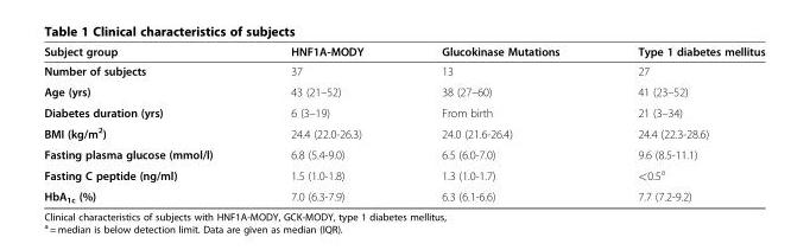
<table><thead><tr><td>Subject group</td><td>HNF1A-MODY</td><td>Glucokinase Mutations</td><td>Type 1 diabetes mellitus</td></tr></thead><tbody><tr><td>Number of subjects</td><td>37</td><td>13</td><td>27</td></tr><tr><td>Age (yrs)</td><td>43 (21–52)</td><td>38 (27–60)</td><td>41 (23–52)</td></tr><tr><td>Diabetes duration (yrs)</td><td>6 (3–19)</td><td>From birth</td><td>21 (3–34)</td></tr><tr><td>BMI (kg/m<sup>2</sup>)</td><td>24.4 (22.0-26.3)</td><td>24.0 (21.6-26.4)</td><td>24.4 (22.3-28.6)</td></tr><tr><td>Fasting plasma glucose (mmol/l)</td><td>6.8 (5.4-9.0)</td><td>6.5 (6.0-7.0)</td><td>9.6 (8.5-11.1)</td></tr><tr><td>Fasting C peptide (ng/ml)</td><td>1.5 (1.0-1.8)</td><td>1.3 (1.0-1.7)</td><td>&lt;0.5<sup>a</sup></td></tr><tr><td>HbA<sub>1c</sub> (%)</td><td>7.0 (6.3-7.9)</td><td>6.3 (6.1-6.6)</td><td>7.7 (7.2-9.2)</td></tr></tbody></table>